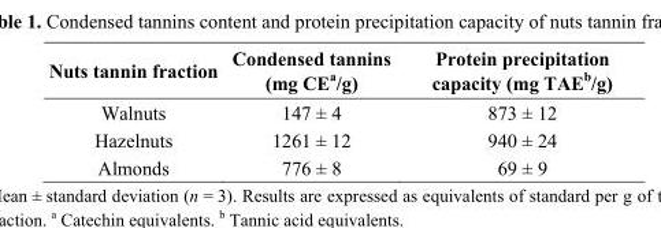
<table><thead><tr><td>Nuts tannin fraction</td><td>Condensed tannins (mg CE<sup>a</sup>/g)</td><td>Protein precipitation capacity (mg TAE<sup>b</sup>/g)</td></tr></thead><tbody><tr><td>Walnuts</td><td>147 ± 4</td><td>873 ± 12</td></tr><tr><td>Hazelnuts</td><td>1261 ± 12</td><td>940 ± 24</td></tr><tr><td>Almonds</td><td>776 ± 8</td><td>69 ± 9</td></tr></tbody></table>